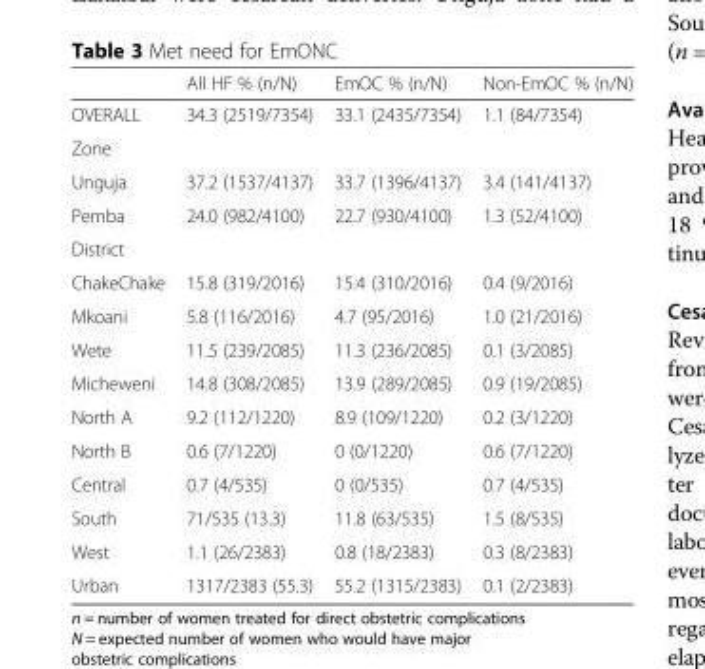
<table><thead><tr><td></td><td>All HF % (n/N)</td><td>EmOC % (n/N)</td><td>Non-EmOC % (n/N)</td></tr></thead><tbody><tr><td>OVERALL</td><td>34.3 (2519/7354)</td><td>33.1 (2435/7354)</td><td>1.1 (84/7354)</td></tr><tr><td colspan="4">Zone</td></tr><tr><td>Unguja</td><td>37.2 (1537/4137)</td><td>33.7 (1396/4137)</td><td>3.4 (141/4137)</td></tr><tr><td>Pemba</td><td>24.0 (982/4100)</td><td>22.7 (930/4100)</td><td>1.3 (52/4100)</td></tr><tr><td colspan="4">District</td></tr><tr><td>ChakeChake</td><td>15.8 (319/2016)</td><td>15.4 (310/2016)</td><td>0.4 (9/2016)</td></tr><tr><td>Mkoani</td><td>5.8 (116/2016)</td><td>4.7 (95/2016)</td><td>1.0 (21/2016)</td></tr><tr><td>Wete</td><td>11.5 (239/2085)</td><td>11.3 (236/2085)</td><td>0.1 (3/2085)</td></tr><tr><td>Micheweni</td><td>14.8 (308/2085)</td><td>13.9 (289/2085)</td><td>0.9 (19/2085)</td></tr><tr><td>North A</td><td>9.2 (112/1220)</td><td>8.9 (109/1220)</td><td>0.2 (3/1220)</td></tr><tr><td>North B</td><td>0.6 (7/1220)</td><td>0 (0/1220)</td><td>0.6 (7/1220)</td></tr><tr><td>Central</td><td>0.7 (4/535)</td><td>0 (0/535)</td><td>0.7 (4/535)</td></tr><tr><td>South</td><td>71/535 (13.3)</td><td>11.8 (63/535)</td><td>1.5 (8/535)</td></tr><tr><td>West</td><td>1.1 (26/2383)</td><td>0.8 (18/2383)</td><td>0.3 (8/2383)</td></tr><tr><td>Urban</td><td>1317/2383 (55.3)</td><td>55.2 (1315/2383)</td><td>0.1 (2/2383)</td></tr></tbody></table>